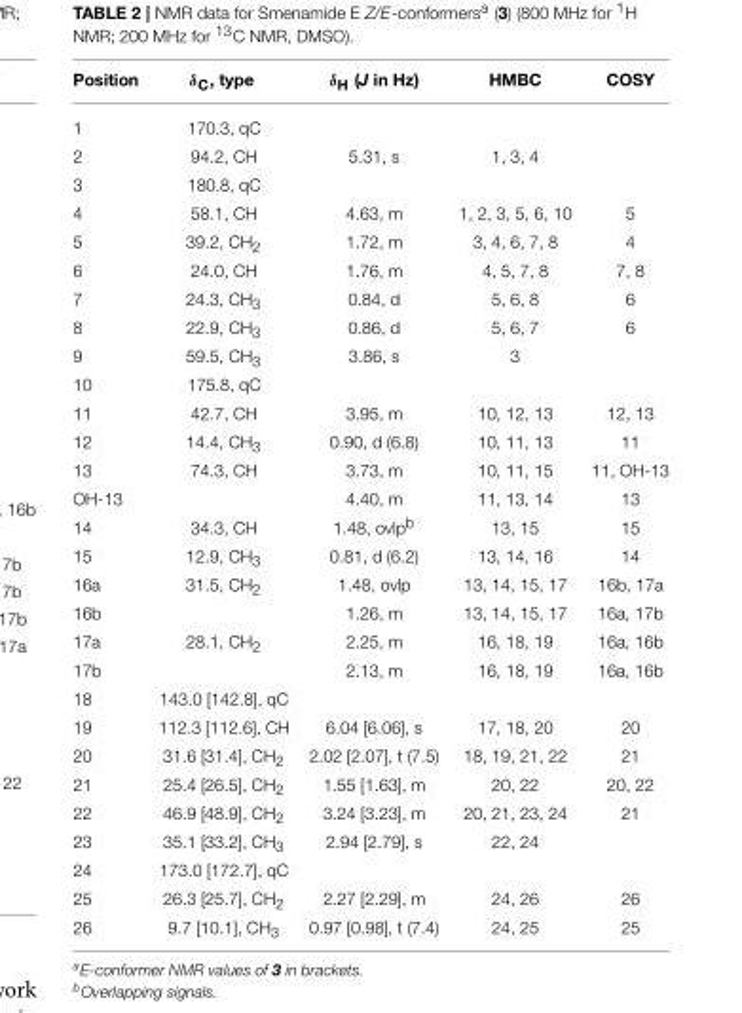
<table><thead><tr><td>Position</td><td>δ<sub>C</sub>, type</td><td>δ<sub>H</sub> (J in Hz)</td><td>HMBC</td><td>COSY</td></tr></thead><tbody><tr><td>1</td><td>170.3, qC</td><td></td><td></td><td></td></tr><tr><td>2</td><td>94.2, CH</td><td>5.31, s</td><td>1, 3, 4</td><td></td></tr><tr><td>3</td><td>180.8, qC</td><td></td><td></td><td></td></tr><tr><td>4</td><td>58.1, CH</td><td>4.63, m</td><td>1, 2, 3, 5, 6, 10</td><td>5</td></tr><tr><td>5</td><td>39.2, CH<sub>2</sub></td><td>1.72, m</td><td>3, 4, 6, 7, 8</td><td>4</td></tr><tr><td>6</td><td>24.0, CH</td><td>1.76, m</td><td>4, 5, 7, 8</td><td>7, 8</td></tr><tr><td>7</td><td>24.3, CH<sub>3</sub></td><td>0.84, d</td><td>5, 6, 8</td><td>6</td></tr><tr><td>8</td><td>22.9, CH<sub>3</sub></td><td>0.86, d</td><td>5, 6, 7</td><td>6</td></tr><tr><td>9</td><td>59.5, CH<sub>3</sub></td><td>3.86, s</td><td>3</td><td></td></tr><tr><td>10</td><td>175.8, qC</td><td></td><td></td><td></td></tr><tr><td>11</td><td>42.7, CH</td><td>3.95, m</td><td>10, 12, 13</td><td>12, 13</td></tr><tr><td>12</td><td>14.4, CH<sub>3</sub></td><td>0.90, d (6.8)</td><td>10, 11, 13</td><td>11</td></tr><tr><td>13</td><td>74.3, CH</td><td>3.73, m</td><td>10, 11, 15</td><td>11, OH-13</td></tr><tr><td>OH-13</td><td></td><td>4.40, m</td><td>11, 13, 14</td><td>13</td></tr><tr><td>14</td><td>34.3, CH</td><td>1.48, ovlp<sup>b</sup></td><td>13, 15</td><td>15</td></tr><tr><td>15</td><td>12.9, CH<sub>3</sub></td><td>0.81, d (6.2)</td><td>13, 14, 16</td><td>14</td></tr><tr><td>16a</td><td>31.5, CH<sub>2</sub></td><td>1.48, ovlp</td><td>13, 14, 15, 17</td><td>16b, 17a</td></tr><tr><td>16b</td><td></td><td>1.26, m</td><td>13, 14, 15, 17</td><td>16a, 17b</td></tr><tr><td>17a</td><td>28.1, CH<sub>2</sub></td><td>2.25, m</td><td>16, 18, 19</td><td>16a, 16b</td></tr><tr><td>17b</td><td></td><td>2.13, m</td><td>16, 18, 19</td><td>16a, 16b</td></tr><tr><td>18</td><td>143.0 [142.8], qC</td><td></td><td></td><td></td></tr><tr><td>19</td><td>112.3 [112.6], CH</td><td>6.04 [6.06], s</td><td>17, 18, 20</td><td>20</td></tr><tr><td>20</td><td>31.6 [31.4], CH<sub>2</sub></td><td>2.02 [2.07], t (7.5)</td><td>18, 19, 21, 22</td><td>21</td></tr><tr><td>21</td><td>25.4 [26.5], CH<sub>2</sub></td><td>1.55 [1.63], m</td><td>20, 22</td><td>20, 22</td></tr><tr><td>22</td><td>46.9 [48.9], CH<sub>2</sub></td><td>3.24 [3.23], m</td><td>20, 21, 23, 24</td><td>21</td></tr><tr><td>23</td><td>35.1 [33.2], CH<sub>3</sub></td><td>2.94 [2.79], s</td><td>22, 24</td><td></td></tr><tr><td>24</td><td>173.0 [172.7], qC</td><td></td><td></td><td></td></tr><tr><td>25</td><td>26.3 [25.7], CH<sub>2</sub></td><td>2.27 [2.29], m</td><td>24, 26</td><td>26</td></tr><tr><td>26</td><td>9.7 [10.1], CH<sub>3</sub></td><td>0.97 [0.98], t (7.4)</td><td>24, 25</td><td>25</td></tr></tbody></table>